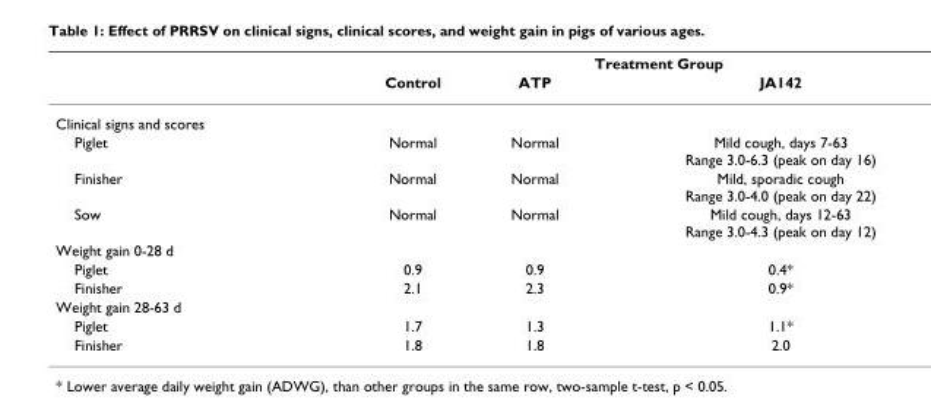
<table><thead><tr><td rowspan="2"></td><td colspan="3">Treatment Group</td></tr><tr><td>Control</td><td>ATP</td><td>JA142</td></tr></thead><tbody><tr><td colspan="4">Clinical signs and scores</td></tr><tr><td>Piglet</td><td>Normal</td><td>Normal</td><td>Mild cough, days 7-63 Range 3.0-6.3 (peak on day 16)</td></tr><tr><td>Finisher</td><td>Normal</td><td>Normal</td><td>Mild, sporadic cough Range 3.0-4.0 (peak on day 22)</td></tr><tr><td>Sow</td><td>Normal</td><td>Normal</td><td>Mild cough, days 12-63 Range 3.0-4.3 (peak on day 12)</td></tr><tr><td colspan="4">Weight gain 0-28 d</td></tr><tr><td>Piglet</td><td>0.9</td><td>0.9</td><td>0.4*</td></tr><tr><td>Finisher</td><td>2.1</td><td>2.3</td><td>0.9*</td></tr><tr><td colspan="4">Weight gain 28-63 d</td></tr><tr><td>Piglet</td><td>1.7</td><td>1.3</td><td>1.1*</td></tr><tr><td>Finisher</td><td>1.8</td><td>1.8</td><td>2.0</td></tr></tbody></table>